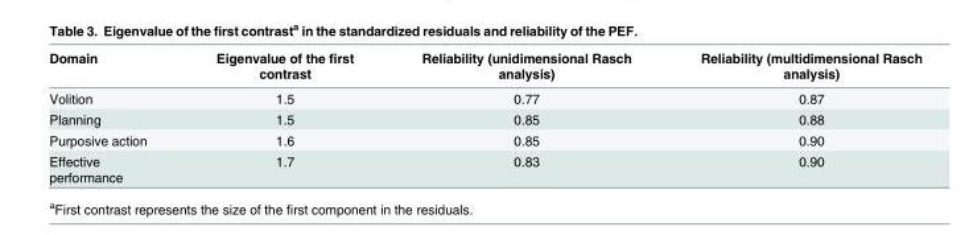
<table><thead><tr><td>Domain</td><td>Eigenvalue of the first contrast</td><td>Reliability (unidimensional Rasch analysis)</td><td>Reliability (multidimensional Rasch analysis)</td></tr></thead><tbody><tr><td>Volition</td><td>1.5</td><td>0.77</td><td>0.87</td></tr><tr><td>Planning</td><td>1.5</td><td>0.85</td><td>0.88</td></tr><tr><td>Purposive action</td><td>1.6</td><td>0.85</td><td>0.90</td></tr><tr><td>Effective performance</td><td>1.7</td><td>0.83</td><td>0.90</td></tr></tbody></table>